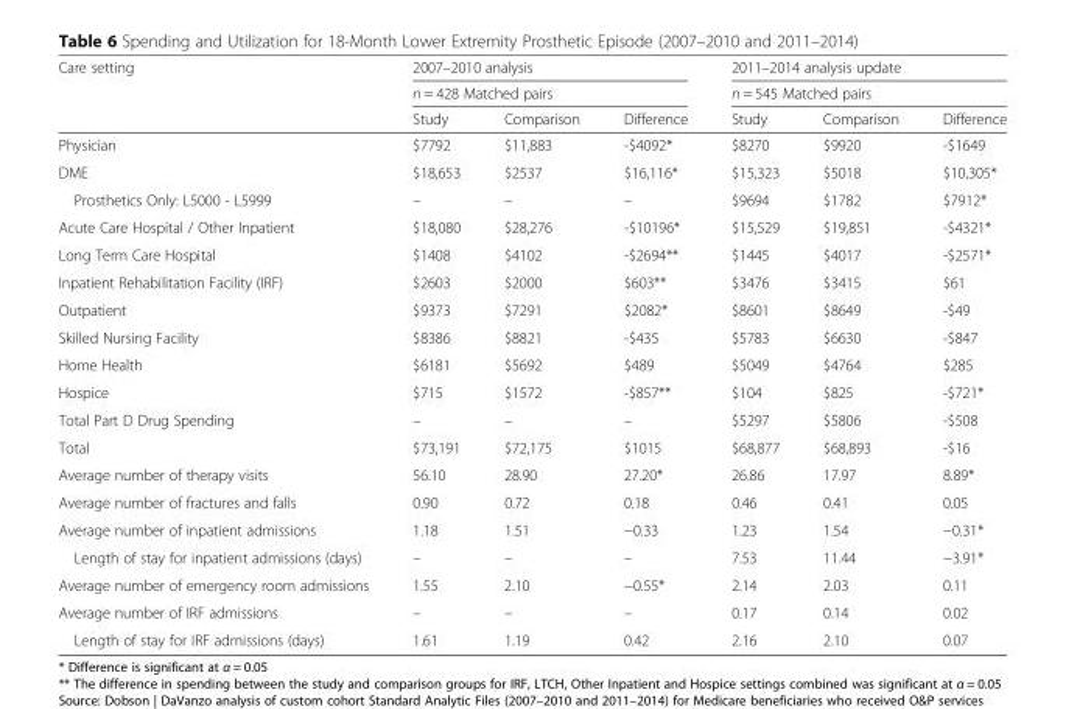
<table><thead><tr><td rowspan="3">Care setting</td><td rowspan="2" colspan="3">2007–2010 analysis n = 428 Matched pairs</td><td rowspan="2" colspan="3">2011–2014 analysis update n = 545 Matched pairs</td></tr><tr></tr><tr><td>Study</td><td>Comparison</td><td>Difference</td><td>Study</td><td>Comparison</td><td>Difference</td></tr></thead><tbody><tr><td>Physician</td><td>$7792</td><td>$11,883</td><td>-$4092*</td><td>$8270</td><td>$9920</td><td>-$1649</td></tr><tr><td>DME</td><td>$18,653</td><td>$2537</td><td>$16,116*</td><td>$15,323</td><td>$5018</td><td>$10,305*</td></tr><tr><td>Prosthetics Only: L5000 - L5999</td><td>–</td><td>–</td><td>–</td><td>$9694</td><td>$1782</td><td>$7912*</td></tr><tr><td>Acute Care Hospital / Other Inpatient</td><td>$18,080</td><td>$28,276</td><td>-$10196*</td><td>$15,529</td><td>$19,851</td><td>-$4321*</td></tr><tr><td>Long Term Care Hospital</td><td>$1408</td><td>$4102</td><td>-$2694**</td><td>$1445</td><td>$4017</td><td>-$2571*</td></tr><tr><td>Inpatient Rehabilitation Facility (IRF)</td><td>$2603</td><td>$2000</td><td>$603**</td><td>$3476</td><td>$3415</td><td>$61</td></tr><tr><td>Outpatient</td><td>$9373</td><td>$7291</td><td>$2082*</td><td>$8601</td><td>$8649</td><td>-$49</td></tr><tr><td>Skilled Nursing Facility</td><td>$8386</td><td>$8821</td><td>-$435</td><td>$5783</td><td>$6630</td><td>-$847</td></tr><tr><td>Home Health</td><td>$6181</td><td>$5692</td><td>$489</td><td>$5049</td><td>$4764</td><td>$285</td></tr><tr><td>Hospice</td><td>$715</td><td>$1572</td><td>-$857**</td><td>$104</td><td>$825</td><td>-$721*</td></tr><tr><td>Total Part D Drug Spending</td><td>–</td><td>–</td><td>–</td><td>$5297</td><td>$5806</td><td>-$508</td></tr><tr><td>Total</td><td>$73,191</td><td>$72,175</td><td>$1015</td><td>$68,877</td><td>$68,893</td><td>-$16</td></tr><tr><td>Average number of therapy visits</td><td>56.10</td><td>28.90</td><td>27.20*</td><td>26.86</td><td>17.97</td><td>8.89*</td></tr><tr><td>Average number of fractures and falls</td><td>0.90</td><td>0.72</td><td>0.18</td><td>0.46</td><td>0.41</td><td>0.05</td></tr><tr><td>Average number of inpatient admissions</td><td>1.18</td><td>1.51</td><td>−0.33</td><td>1.23</td><td>1.54</td><td>−0.31*</td></tr><tr><td>Length of stay for inpatient admissions (days)</td><td>–</td><td>–</td><td>–</td><td>7.53</td><td>11.44</td><td>−3.91*</td></tr><tr><td>Average number of emergency room admissions</td><td>1.55</td><td>2.10</td><td>−0.55*</td><td>2.14</td><td>2.03</td><td>0.11</td></tr><tr><td>Average number of IRF admissions</td><td>–</td><td>–</td><td>–</td><td>0.17</td><td>0.14</td><td>0.02</td></tr><tr><td>Length of stay for IRF admissions (days)</td><td>1.61</td><td>1.19</td><td>0.42</td><td>2.16</td><td>2.10</td><td>0.07</td></tr></tbody></table>